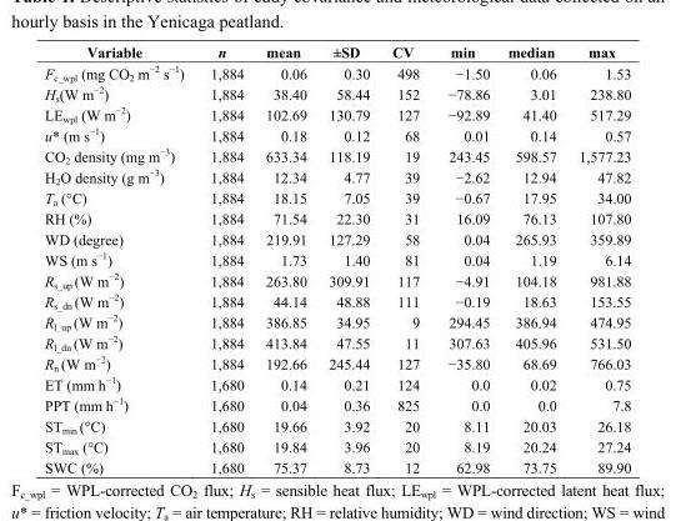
<table><thead><tr><td>Variable</td><td>n</td><td>mean</td><td>±SD</td><td>CV</td><td>min</td><td>median</td><td>max</td></tr></thead><tbody><tr><td>F<sub>c_wpl</sub> (mg CO<sub>2</sub> m<sup>−2</sup> s<sup>−1</sup>)</td><td>1,884</td><td>0.06</td><td>0.30</td><td>498</td><td>−1.50</td><td>0.06</td><td>1.53</td></tr><tr><td>H<sub>s</sub>(W m<sup>−2</sup>)</td><td>1,884</td><td>38.40</td><td>58.44</td><td>152</td><td>−78.86</td><td>3.01</td><td>238.80</td></tr><tr><td>LE<sub>wpl</sub> (W m<sup>−2</sup>)</td><td>1,884</td><td>102.69</td><td>130.79</td><td>127</td><td>−92.89</td><td>41.40</td><td>517.29</td></tr><tr><td>u* (m s<sup>−1</sup>)</td><td>1,884</td><td>0.18</td><td>0.12</td><td>68</td><td>0.01</td><td>0.14</td><td>0.57</td></tr><tr><td>CO<sub>2</sub> density (mg m<sup>−3</sup>)</td><td>1,884</td><td>633.34</td><td>118.19</td><td>19</td><td>243.45</td><td>598.57</td><td>1,577.23</td></tr><tr><td>H<sub>2</sub>O density (g m<sup>−3</sup>)</td><td>1,884</td><td>12.34</td><td>4.77</td><td>39</td><td>−2.62</td><td>12.94</td><td>47.82</td></tr><tr><td>T<sub>a</sub> (°C)</td><td>1,884</td><td>18.15</td><td>7.05</td><td>39</td><td>−0.67</td><td>17.95</td><td>34.00</td></tr><tr><td>RH (%)</td><td>1,884</td><td>71.54</td><td>22.30</td><td>31</td><td>16.09</td><td>76.13</td><td>107.80</td></tr><tr><td>WD (degree)</td><td>1,884</td><td>219.91</td><td>127.29</td><td>58</td><td>0.04</td><td>265.93</td><td>359.89</td></tr><tr><td>WS (m s<sup>−1</sup>)</td><td>1,884</td><td>1.73</td><td>1.40</td><td>81</td><td>0.04</td><td>1.19</td><td>6.14</td></tr><tr><td>R<sub>s_up</sub> (W m<sup>−2</sup>)</td><td>1,884</td><td>263.80</td><td>309.91</td><td>117</td><td>−4.91</td><td>104.18</td><td>981.88</td></tr><tr><td>R<sub>s_dn</sub> (W m<sup>−2</sup>)</td><td>1,884</td><td>44.14</td><td>48.88</td><td>111</td><td>−0.19</td><td>18.63</td><td>153.55</td></tr><tr><td>R<sub>l_up</sub> (W m<sup>−2</sup>)</td><td>1,884</td><td>386.85</td><td>34.95</td><td>9</td><td>294.45</td><td>386.94</td><td>474.95</td></tr><tr><td>R<sub>l_dn</sub> (W m<sup>−2</sup>)</td><td>1,884</td><td>413.84</td><td>47.55</td><td>11</td><td>307.63</td><td>405.96</td><td>531.50</td></tr><tr><td>R<sub>n</sub> (W m<sup>−2</sup>)</td><td>1,884</td><td>192.66</td><td>245.44</td><td>127</td><td>−35.80</td><td>68.69</td><td>766.03</td></tr><tr><td>ET (mm h<sup>−1</sup>)</td><td>1,680</td><td>0.14</td><td>0.21</td><td>124</td><td>0.0</td><td>0.02</td><td>0.75</td></tr><tr><td>PPT (mm h<sup>−1</sup>)</td><td>1,680</td><td>0.04</td><td>0.36</td><td>825</td><td>0.0</td><td>0.0</td><td>7.8</td></tr><tr><td>ST<sub>min</sub> (°C)</td><td>1,680</td><td>19.66</td><td>3.92</td><td>20</td><td>8.11</td><td>20.03</td><td>26.18</td></tr><tr><td>ST<sub>max</sub> (°C)</td><td>1,680</td><td>19.84</td><td>3.96</td><td>20</td><td>8.19</td><td>20.24</td><td>27.24</td></tr><tr><td>SWC (%)</td><td>1,680</td><td>75.37</td><td>8.73</td><td>12</td><td>62.98</td><td>73.75</td><td>89.90</td></tr></tbody></table>